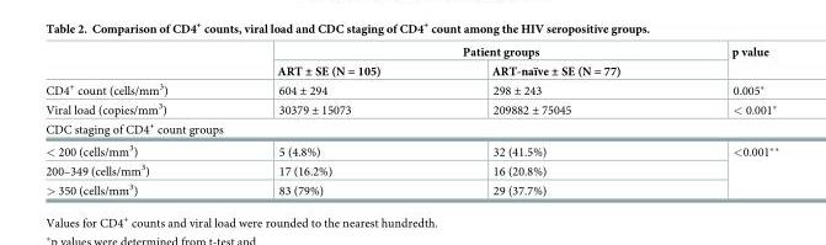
<table><thead><tr><td rowspan="2"></td><td colspan="2">Patient groups</td><td rowspan="2">p value</td></tr><tr><td>ART ± SE (N = 105)</td><td>ART-naïve ± SE (N = 77)</td></tr></thead><tbody><tr><td>CD4<sup>+</sup> count (cells/mm<sup>3</sup>)</td><td>604 ± 294</td><td>298 ± 243</td><td>0.005*</td></tr><tr><td>Viral load (copies/mm<sup>3</sup>)</td><td>30379 ± 15073</td><td>209882 ± 75045</td><td>&lt; 0.001*</td></tr><tr><td colspan="4">CDC staging of CD4<sup>+</sup> count groups</td></tr><tr><td>&lt; 200 (cells/mm<sup>3</sup>)</td><td>5 (4.8%)</td><td>32 (41.5%)</td><td rowspan="3">&lt;0.001**</td></tr><tr><td>200–349 (cells/mm<sup>3</sup>)</td><td>17 (16.2%)</td><td>16 (20.8%)</td></tr><tr><td>&gt; 350 (cells/mm<sup>3</sup>)</td><td>83 (79%)</td><td>29 (37.7%)</td></tr></tbody></table>